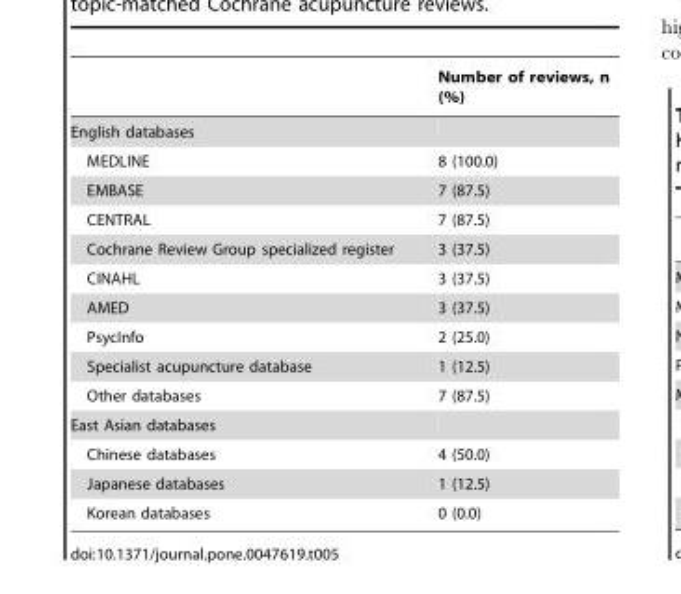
<table><thead><tr><td></td><td>Number of reviews, n (%)</td></tr></thead><tbody><tr><td colspan="2">English databases</td></tr><tr><td>MEDLINE</td><td>8 (100.0)</td></tr><tr><td>EMBASE</td><td>7 (87.5)</td></tr><tr><td>CENTRAL</td><td>7 (87.5)</td></tr><tr><td>Cochrane Review Group specialized register</td><td>3 (37.5)</td></tr><tr><td>CINAHL</td><td>3 (37.5)</td></tr><tr><td>AMED</td><td>3 (37.5)</td></tr><tr><td>PsycInfo</td><td>2 (25.0)</td></tr><tr><td>Specialist acupuncture database</td><td>1 (12.5)</td></tr><tr><td>Other databases</td><td>7 (87.5)</td></tr><tr><td colspan="2">East Asian databases</td></tr><tr><td>Chinese databases</td><td>4 (50.0)</td></tr><tr><td>Japanese databases</td><td>1 (12.5)</td></tr><tr><td>Korean databases</td><td>0 (0.0)</td></tr></tbody></table>